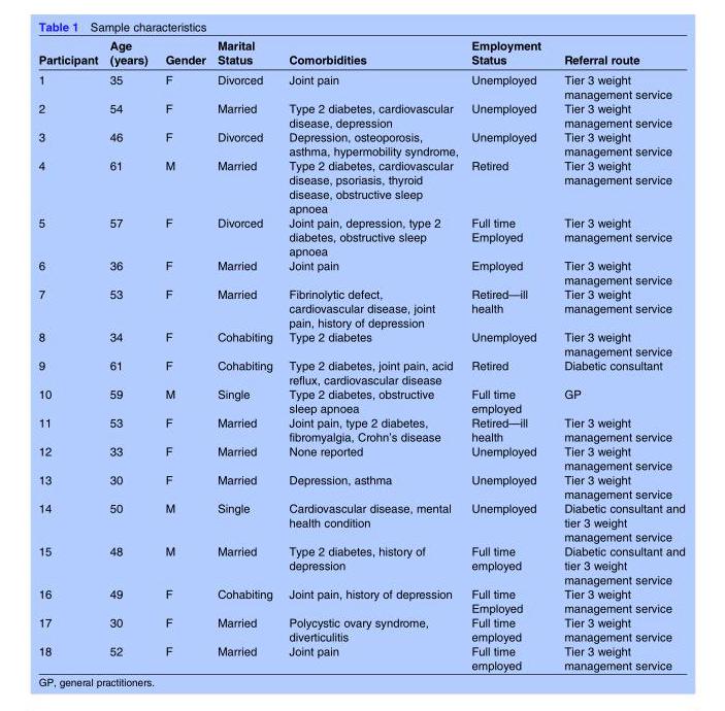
<table><thead><tr><td>Participant</td><td>Age (years)</td><td>Gender</td><td>Marital Status</td><td>Comorbidities</td><td>Employment Status</td><td>Referral route</td></tr></thead><tbody><tr><td>1</td><td>35</td><td>F</td><td>Divorced</td><td>Joint pain</td><td>Unemployed</td><td>Tier 3 weight management service</td></tr><tr><td>2</td><td>54</td><td>F</td><td>Married</td><td>Type 2 diabetes, cardiovascular disease, depression</td><td>Unemployed</td><td>Tier 3 weight management service</td></tr><tr><td>3</td><td>46</td><td>F</td><td>Divorced</td><td>Depression, osteoporosis, asthma, hypermobility syndrome,</td><td>Unemployed</td><td>Tier 3 weight management service</td></tr><tr><td>4</td><td>61</td><td>M</td><td>Married</td><td>Type 2 diabetes, cardiovascular disease, psoriasis, thyroid disease, obstructive sleep apnoea</td><td>Retired</td><td>Tier 3 weight management service</td></tr><tr><td>5</td><td>57</td><td>F</td><td>Divorced</td><td>Joint pain, depression, type 2 diabetes, obstructive sleep apnoea</td><td>Full time Employed</td><td>Tier 3 weight management service</td></tr><tr><td>6</td><td>36</td><td>F</td><td>Married</td><td>Joint pain</td><td>Employed</td><td>Tier 3 weight management service</td></tr><tr><td>7</td><td>53</td><td>F</td><td>Married</td><td>Fibrinolytic defect, cardiovascular disease, joint pain, history of depression</td><td>Retired—ill health</td><td>Tier 3 weight management service</td></tr><tr><td>8</td><td>34</td><td>F</td><td>Cohabiting</td><td>Type 2 diabetes</td><td>Unemployed</td><td>Tier 3 weight management service</td></tr><tr><td>9</td><td>61</td><td>F</td><td>Cohabiting</td><td>Type 2 diabetes, joint pain, acid reflux, cardiovascular disease</td><td>Retired</td><td>Diabetic consultant</td></tr><tr><td>10</td><td>59</td><td>M</td><td>Single</td><td>Type 2 diabetes, obstructive sleep apnoea</td><td>Full time employed</td><td>GP</td></tr><tr><td>11</td><td>53</td><td>F</td><td>Married</td><td>Joint pain, type 2 diabetes, fibromyalgia, Crohn’s disease</td><td>Retired—ill health</td><td>Tier 3 weight management service</td></tr><tr><td>12</td><td>33</td><td>F</td><td>Married</td><td>None reported</td><td>Unemployed</td><td>Tier 3 weight management service</td></tr><tr><td>13</td><td>30</td><td>F</td><td>Married</td><td>Depression, asthma</td><td>Unemployed</td><td>Tier 3 weight management service</td></tr><tr><td>14</td><td>50</td><td>M</td><td>Single</td><td>Cardiovascular disease, mental health condition</td><td>Unemployed</td><td>Diabetic consultant and tier 3 weight management service</td></tr><tr><td>15</td><td>48</td><td>M</td><td>Married</td><td>Type 2 diabetes, history of depression</td><td>Full time employed</td><td>Diabetic consultant and tier 3 weight management service</td></tr><tr><td>16</td><td>49</td><td>F</td><td>Cohabiting</td><td>Joint pain, history of depression</td><td>Full time Employed</td><td>Tier 3 weight management service</td></tr><tr><td>17</td><td>30</td><td>F</td><td>Married</td><td>Polycystic ovary syndrome, diverticulitis</td><td>Full time employed</td><td>Tier 3 weight management service</td></tr><tr><td>18</td><td>52</td><td>F</td><td>Married</td><td>Joint pain</td><td>Full time employed</td><td>Tier 3 weight management service</td></tr></tbody></table>